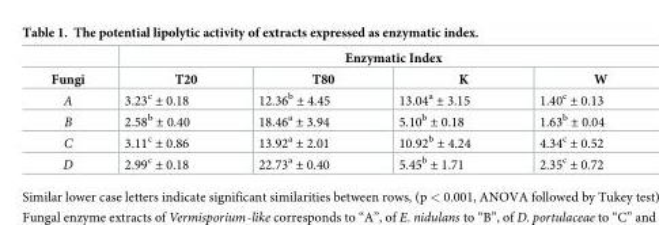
<table><thead><tr><td rowspan="2">Fungi</td><td colspan="4">Enzymatic Index</td></tr><tr><td>T20</td><td>T80</td><td>K</td><td>W</td></tr></thead><tbody><tr><td>A</td><td>3.23<sup>c</sup> ± 0.18</td><td>12.36<sup>b</sup> ± 4.45</td><td>13.04<sup>a</sup> ± 3.15</td><td>1.40<sup>c</sup> ± 0.13</td></tr><tr><td>B</td><td>2.58<sup>b</sup> ± 0.40</td><td>18.46<sup>a</sup> ± 3.94</td><td>5.10<sup>b</sup> ± 0.18</td><td>1.63<sup>b</sup> ± 0.04</td></tr><tr><td>C</td><td>3.11<sup>c</sup> ± 0.86</td><td>13.92<sup>a</sup> ± 2.01</td><td>10.92<sup>b</sup> ± 4.24</td><td>4.34<sup>c</sup> ± 0.52</td></tr><tr><td>D</td><td>2.99<sup>c</sup> ± 0.18</td><td>22.73<sup>a</sup> ± 0.40</td><td>5.45<sup>b</sup> ± 1.71</td><td>2.35<sup>c</sup> ± 0.72</td></tr></tbody></table>